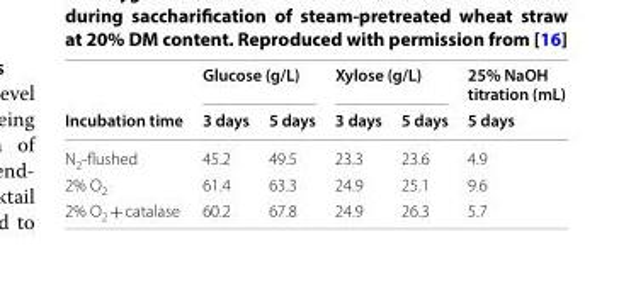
<table><thead><tr><td rowspan="2">Incubation time</td><td colspan="2">Glucose (g/L)</td><td colspan="2">Xylose (g/L)</td><td rowspan="2">25% NaOH titration (mL) 5 days</td></tr><tr><td>3 days</td><td>5 days</td><td>3 days</td><td>5 days</td></tr></thead><tbody><tr><td>N<sub>2</sub>-flushed</td><td>45.2</td><td>49.5</td><td>23.3</td><td>23.6</td><td>4.9</td></tr><tr><td>2% O<sub>2</sub></td><td>61.4</td><td>63.3</td><td>24.9</td><td>25.1</td><td>9.6</td></tr><tr><td>2% O<sub>2</sub> + catalase</td><td>60.2</td><td>67.8</td><td>24.9</td><td>26.3</td><td>5.7</td></tr></tbody></table>